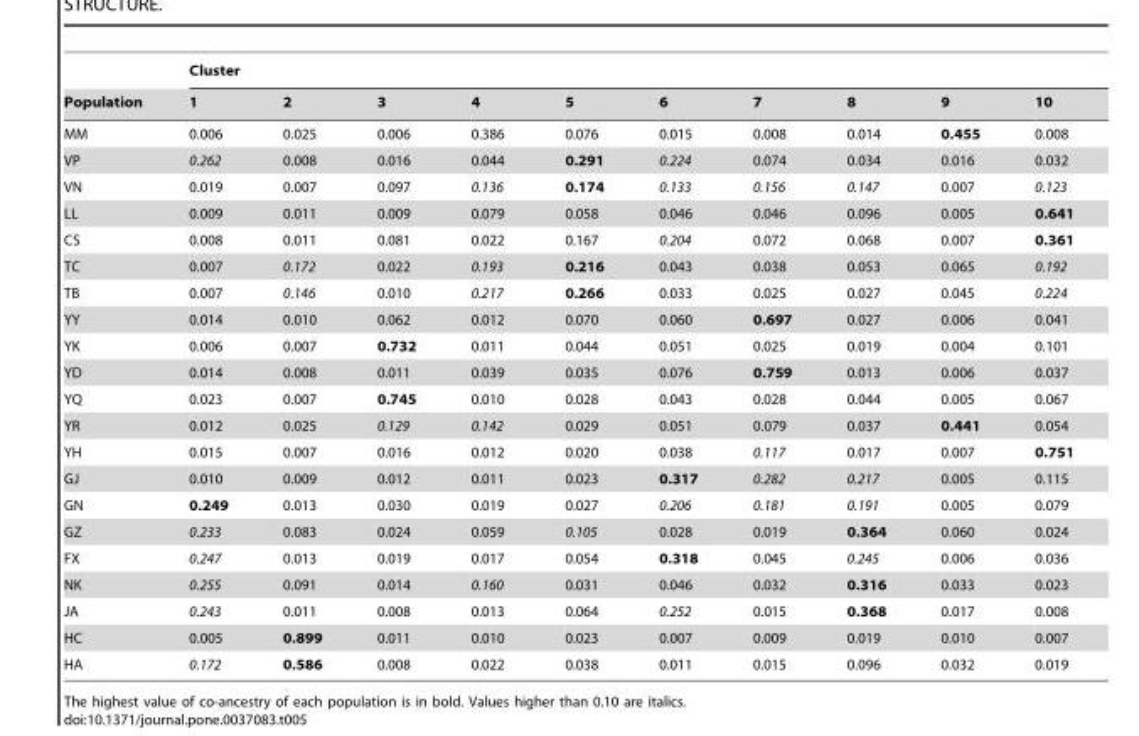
<table><thead><tr><td rowspan="2">Population</td><td colspan="10">Cluster</td></tr><tr><td>1</td><td>2</td><td>3</td><td>4</td><td>5</td><td>6</td><td>7</td><td>8</td><td>9</td><td>10</td></tr></thead><tbody><tr><td>MM</td><td>0.006</td><td>0.025</td><td>0.006</td><td>0.386</td><td>0.076</td><td>0.015</td><td>0.008</td><td>0.014</td><td>0.455</td><td>0.008</td></tr><tr><td>VP</td><td>0.262</td><td>0.008</td><td>0.016</td><td>0.044</td><td>0.291</td><td>0.224</td><td>0.074</td><td>0.034</td><td>0.016</td><td>0.032</td></tr><tr><td>VN</td><td>0.019</td><td>0.007</td><td>0.097</td><td>0.136</td><td>0.174</td><td>0.133</td><td>0.156</td><td>0.147</td><td>0.007</td><td>0.123</td></tr><tr><td>LL</td><td>0.009</td><td>0.011</td><td>0.009</td><td>0.079</td><td>0.058</td><td>0.046</td><td>0.046</td><td>0.096</td><td>0.005</td><td>0.641</td></tr><tr><td>CS</td><td>0.008</td><td>0.011</td><td>0.081</td><td>0.022</td><td>0.167</td><td>0.204</td><td>0.072</td><td>0.068</td><td>0.007</td><td>0.361</td></tr><tr><td>TC</td><td>0.007</td><td>0.172</td><td>0.022</td><td>0.193</td><td>0.216</td><td>0.043</td><td>0.038</td><td>0.053</td><td>0.065</td><td>0.192</td></tr><tr><td>TB</td><td>0.007</td><td>0.146</td><td>0.010</td><td>0.217</td><td>0.266</td><td>0.033</td><td>0.025</td><td>0.027</td><td>0.045</td><td>0.224</td></tr><tr><td>YY</td><td>0.014</td><td>0.010</td><td>0.062</td><td>0.012</td><td>0.070</td><td>0.060</td><td>0.697</td><td>0.027</td><td>0.006</td><td>0.041</td></tr><tr><td>YK</td><td>0.006</td><td>0.007</td><td>0.732</td><td>0.011</td><td>0.044</td><td>0.051</td><td>0.025</td><td>0.019</td><td>0.004</td><td>0.101</td></tr><tr><td>YD</td><td>0.014</td><td>0.008</td><td>0.011</td><td>0.039</td><td>0.035</td><td>0.076</td><td>0.759</td><td>0.013</td><td>0.006</td><td>0.037</td></tr><tr><td>YQ</td><td>0.023</td><td>0.007</td><td>0.745</td><td>0.010</td><td>0.028</td><td>0.043</td><td>0.028</td><td>0.044</td><td>0.005</td><td>0.067</td></tr><tr><td>YR</td><td>0.012</td><td>0.025</td><td>0.129</td><td>0.142</td><td>0.029</td><td>0.051</td><td>0.079</td><td>0.037</td><td>0.441</td><td>0.054</td></tr><tr><td>YH</td><td>0.015</td><td>0.007</td><td>0.016</td><td>0.012</td><td>0.020</td><td>0.038</td><td>0.117</td><td>0.017</td><td>0.007</td><td>0.751</td></tr><tr><td>GJ</td><td>0.010</td><td>0.009</td><td>0.012</td><td>0.011</td><td>0.023</td><td>0.317</td><td>0.282</td><td>0.217</td><td>0.005</td><td>0.115</td></tr><tr><td>GN</td><td>0.249</td><td>0.013</td><td>0.030</td><td>0.019</td><td>0.027</td><td>0.206</td><td>0.181</td><td>0.191</td><td>0.005</td><td>0.079</td></tr><tr><td>GZ</td><td>0.233</td><td>0.083</td><td>0.024</td><td>0.059</td><td>0.105</td><td>0.028</td><td>0.019</td><td>0.364</td><td>0.060</td><td>0.024</td></tr><tr><td>FX</td><td>0.247</td><td>0.013</td><td>0.019</td><td>0.017</td><td>0.054</td><td>0.318</td><td>0.045</td><td>0.245</td><td>0.006</td><td>0.036</td></tr><tr><td>NK</td><td>0.255</td><td>0.091</td><td>0.014</td><td>0.160</td><td>0.031</td><td>0.046</td><td>0.032</td><td>0.316</td><td>0.033</td><td>0.023</td></tr><tr><td>JA</td><td>0.243</td><td>0.011</td><td>0.008</td><td>0.013</td><td>0.064</td><td>0.252</td><td>0.015</td><td>0.368</td><td>0.017</td><td>0.008</td></tr><tr><td>HC</td><td>0.005</td><td>0.899</td><td>0.011</td><td>0.010</td><td>0.023</td><td>0.007</td><td>0.009</td><td>0.019</td><td>0.010</td><td>0.007</td></tr><tr><td>HA</td><td>0.172</td><td>0.586</td><td>0.008</td><td>0.022</td><td>0.038</td><td>0.011</td><td>0.015</td><td>0.096</td><td>0.032</td><td>0.019</td></tr></tbody></table>